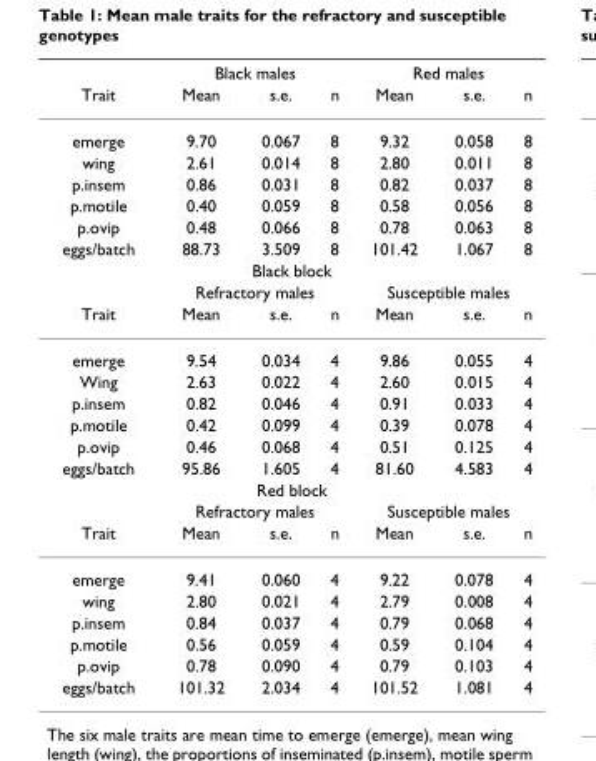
<table><thead><tr><td rowspan="2">Trait</td><td colspan="3">Black males</td><td colspan="3">Red males</td></tr><tr><td>Mean</td><td>s.e.</td><td>n</td><td>Mean</td><td>s.e.</td><td>n</td></tr></thead><tbody><tr><td>emerge</td><td>9.70</td><td>0.067</td><td>8</td><td>9.32</td><td>0.058</td><td>8</td></tr><tr><td>wing</td><td>2.61</td><td>0.014</td><td>8</td><td>2.80</td><td>0.011</td><td>8</td></tr><tr><td>p.insem</td><td>0.86</td><td>0.031</td><td>8</td><td>0.82</td><td>0.037</td><td>8</td></tr><tr><td>p.motile</td><td>0.40</td><td>0.059</td><td>8</td><td>0.58</td><td>0.056</td><td>8</td></tr><tr><td>p.ovip</td><td>0.48</td><td>0.066</td><td>8</td><td>0.78</td><td>0.063</td><td>8</td></tr><tr><td>eggs/batch</td><td>88.73</td><td>3.509</td><td>8</td><td>101.42</td><td>1.067</td><td>8</td></tr><tr><td colspan="7">Black block</td></tr><tr><td></td><td colspan="3">Refractory males</td><td colspan="3">Susceptible males</td></tr><tr><td>Trait</td><td>Mean</td><td>s.e.</td><td>n</td><td>Mean</td><td>s.e.</td><td>n</td></tr><tr><td>emerge</td><td>9.54</td><td>0.034</td><td>4</td><td>9.86</td><td>0.055</td><td>4</td></tr><tr><td>Wing</td><td>2.63</td><td>0.022</td><td>4</td><td>2.60</td><td>0.015</td><td>4</td></tr><tr><td>p.insem</td><td>0.82</td><td>0.046</td><td>4</td><td>0.91</td><td>0.033</td><td>4</td></tr><tr><td>p.motile</td><td>0.42</td><td>0.099</td><td>4</td><td>0.39</td><td>0.078</td><td>4</td></tr><tr><td>p.ovip</td><td>0.46</td><td>0.068</td><td>4</td><td>0.51</td><td>0.125</td><td>4</td></tr><tr><td>eggs/batch</td><td>95.86</td><td>1.605</td><td>4</td><td>81.60</td><td>4.583</td><td>4</td></tr><tr><td colspan="7">Red block</td></tr><tr><td></td><td colspan="3">Refractory males</td><td colspan="3">Susceptible males</td></tr><tr><td>Trait</td><td>Mean</td><td>s.e.</td><td>n</td><td>Mean</td><td>s.e.</td><td>n</td></tr><tr><td>emerge</td><td>9.41</td><td>0.060</td><td>4</td><td>9.22</td><td>0.078</td><td>4</td></tr><tr><td>wing</td><td>2.80</td><td>0.021</td><td>4</td><td>2.79</td><td>0.008</td><td>4</td></tr><tr><td>p.insem</td><td>0.84</td><td>0.037</td><td>4</td><td>0.79</td><td>0.068</td><td>4</td></tr><tr><td>p.motile</td><td>0.56</td><td>0.059</td><td>4</td><td>0.59</td><td>0.104</td><td>4</td></tr><tr><td>p.ovip</td><td>0.78</td><td>0.090</td><td>4</td><td>0.79</td><td>0.103</td><td>4</td></tr><tr><td>eggs/batch</td><td>101.32</td><td>2.034</td><td>4</td><td>101.52</td><td>1.081</td><td>4</td></tr></tbody></table>